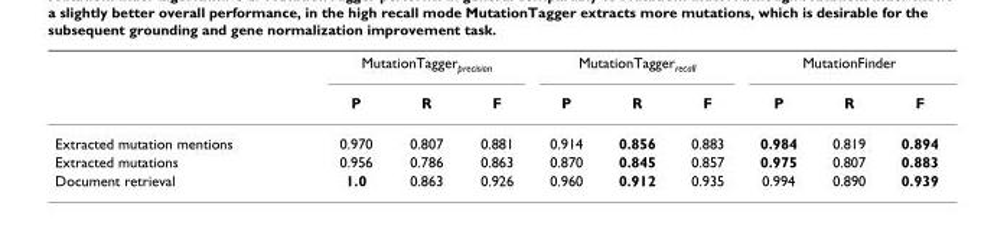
<table><thead><tr><td rowspan="2"></td><td colspan="3">MutationTagger<sub>precision</sub></td><td colspan="3">MutationTagger<sub>recall</sub></td><td colspan="3">MutationFinder</td></tr><tr><td>P</td><td>R</td><td>F</td><td>P</td><td>R</td><td>F</td><td>P</td><td>R</td><td>F</td></tr></thead><tbody><tr><td>Extracted mutation mentions</td><td>0.970</td><td>0.807</td><td>0.881</td><td>0.914</td><td>0.856</td><td>0.883</td><td>0.984</td><td>0.819</td><td>0.894</td></tr><tr><td>Extracted mutations</td><td>0.956</td><td>0.786</td><td>0.863</td><td>0.870</td><td>0.845</td><td>0.857</td><td>0.975</td><td>0.807</td><td>0.883</td></tr><tr><td>Document retrieval</td><td>1.0</td><td>0.863</td><td>0.926</td><td>0.960</td><td>0.912</td><td>0.935</td><td>0.994</td><td>0.890</td><td>0.939</td></tr></tbody></table>